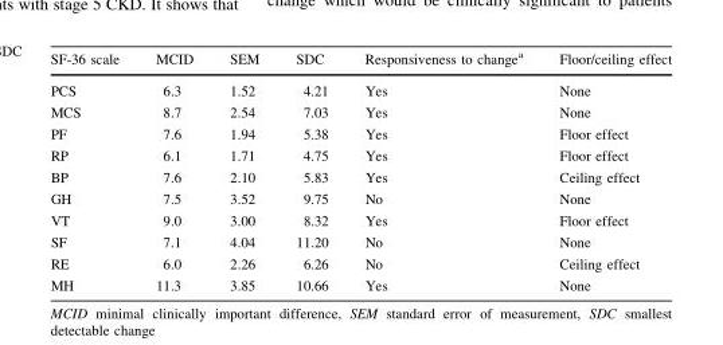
<table><thead><tr><td>SF-36 scale</td><td>MCID</td><td>SEM</td><td>SDC</td><td>Responsiveness to change<sup>a</sup></td><td>Floor/ceiling effect</td></tr></thead><tbody><tr><td>PCS</td><td>6.3</td><td>1.52</td><td>4.21</td><td>Yes</td><td>None</td></tr><tr><td>MCS</td><td>8.7</td><td>2.54</td><td>7.03</td><td>Yes</td><td>None</td></tr><tr><td>PF</td><td>7.6</td><td>1.94</td><td>5.38</td><td>Yes</td><td>Floor effect</td></tr><tr><td>RP</td><td>6.1</td><td>1.71</td><td>4.75</td><td>Yes</td><td>Floor effect</td></tr><tr><td>BP</td><td>7.6</td><td>2.10</td><td>5.83</td><td>Yes</td><td>Ceiling effect</td></tr><tr><td>GH</td><td>7.5</td><td>3.52</td><td>9.75</td><td>No</td><td>None</td></tr><tr><td>VT</td><td>9.0</td><td>3.00</td><td>8.32</td><td>Yes</td><td>Floor effect</td></tr><tr><td>SF</td><td>7.1</td><td>4.04</td><td>11.20</td><td>No</td><td>None</td></tr><tr><td>RE</td><td>6.0</td><td>2.26</td><td>6.26</td><td>No</td><td>Ceiling effect</td></tr><tr><td>MH</td><td>11.3</td><td>3.85</td><td>10.66</td><td>Yes</td><td>None</td></tr></tbody></table>